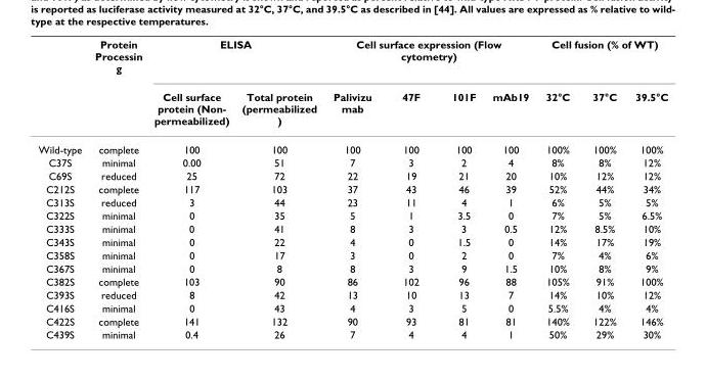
<table><thead><tr><td rowspan="2"></td><td rowspan="2">Protein Processin g</td><td colspan="2">ELISA</td><td colspan="4">Cell surface expression (Flow cytometry)</td><td colspan="3">Cell fusion (% of WT)</td></tr><tr><td>Cell surface protein (Non- permeabilized)</td><td>Total protein (permeabilized )</td><td>Palivizu mab</td><td>47F</td><td>101F</td><td>mAb19</td><td>32°C</td><td>37°C</td><td>39.5°C</td></tr></thead><tbody><tr><td>Wild-type</td><td>complete</td><td>100</td><td>100</td><td>100</td><td>100</td><td>100</td><td>100</td><td>100%</td><td>100%</td><td>100%</td></tr><tr><td>C37S</td><td>minimal</td><td>0.00</td><td>51</td><td>7</td><td>3</td><td>2</td><td>4</td><td>8%</td><td>8%</td><td>12%</td></tr><tr><td>C69S</td><td>reduced</td><td>25</td><td>72</td><td>22</td><td>19</td><td>21</td><td>20</td><td>10%</td><td>12%</td><td>12%</td></tr><tr><td>C212S</td><td>complete</td><td>117</td><td>103</td><td>37</td><td>43</td><td>46</td><td>39</td><td>52%</td><td>44%</td><td>34%</td></tr><tr><td>C313S</td><td>reduced</td><td>3</td><td>44</td><td>23</td><td>11</td><td>4</td><td>1</td><td>6%</td><td>5%</td><td>5%</td></tr><tr><td>C322S</td><td>minimal</td><td>0</td><td>35</td><td>5</td><td>1</td><td>3.5</td><td>0</td><td>7%</td><td>5%</td><td>6.5%</td></tr><tr><td>C333S</td><td>minimal</td><td>0</td><td>41</td><td>8</td><td>3</td><td>3</td><td>0.5</td><td>12%</td><td>8.5%</td><td>10%</td></tr><tr><td>C343S</td><td>minimal</td><td>0</td><td>22</td><td>4</td><td>0</td><td>1.5</td><td>0</td><td>14%</td><td>17%</td><td>19%</td></tr><tr><td>C358S</td><td>minimal</td><td>0</td><td>17</td><td>3</td><td>0</td><td>2</td><td>0</td><td>7%</td><td>4%</td><td>6%</td></tr><tr><td>C367S</td><td>minimal</td><td>0</td><td>8</td><td>8</td><td>3</td><td>9</td><td>1.5</td><td>10%</td><td>8%</td><td>9%</td></tr><tr><td>C382S</td><td>complete</td><td>103</td><td>90</td><td>86</td><td>102</td><td>96</td><td>88</td><td>105%</td><td>91%</td><td>100%</td></tr><tr><td>C393S</td><td>reduced</td><td>8</td><td>42</td><td>13</td><td>10</td><td>13</td><td>7</td><td>14%</td><td>10%</td><td>12%</td></tr><tr><td>C416S</td><td>minimal</td><td>0</td><td>43</td><td>4</td><td>3</td><td>5</td><td>0</td><td>5.5%</td><td>4%</td><td>4%</td></tr><tr><td>C422S</td><td>complete</td><td>141</td><td>132</td><td>90</td><td>93</td><td>81</td><td>81</td><td>140%</td><td>122%</td><td>146%</td></tr><tr><td>C439S</td><td>minimal</td><td>0.4</td><td>26</td><td>7</td><td>4</td><td>4</td><td>1</td><td>50%</td><td>29%</td><td>30%</td></tr></tbody></table>